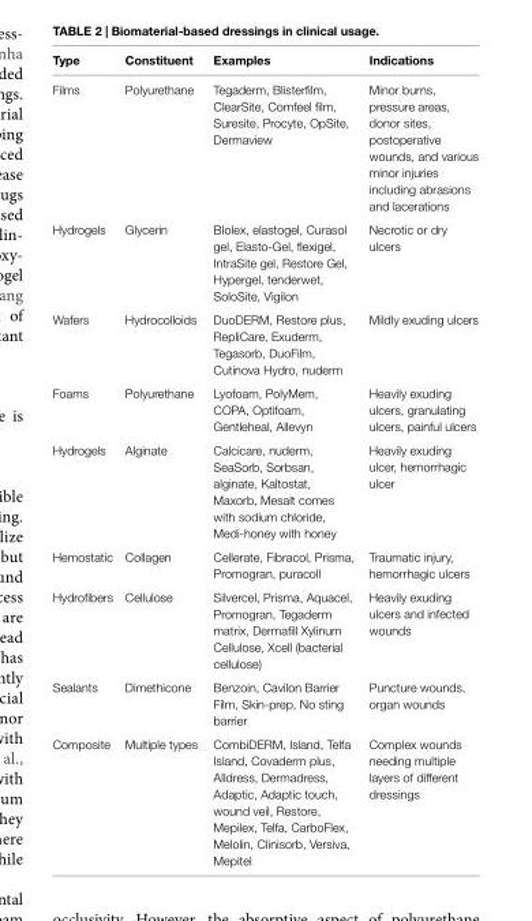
<table><thead><tr><td>Type</td><td>Constituent</td><td>examples</td><td>indications</td></tr></thead><tbody><tr><td>Films</td><td>Polyurethane</td><td>Tegaderm, Blisterfilm, ClearSite, Comfeel film, Suresite, Procyte, OpSite, Dermaview</td><td>Minor burns, pressure areas, donor sites, postoperative wounds, and various minor injuries including abrasions and lacerations</td></tr><tr><td>Hydrogels</td><td>Glycerin</td><td>BIolex, elastogel, Curasol gel, Elasto-Gel, flexigel, IntraSite gel, Restore Gel, Hypergel, tenderwet, SoloSite, Vigilon</td><td>Necrotic or dry ulcers</td></tr><tr><td>Wafers</td><td>Hydrocolloids</td><td>DuoDERM, Restore plus, RepliCare, Exuderm, Tegasorb, DuoFilm, Cutinova Hydro, nuderm</td><td>Mildly exuding ulcers</td></tr><tr><td>Foams</td><td>Polyurethane</td><td>Lyofoam, PolyMem, COPA, Optifoam, Gentleheal, Allevyn</td><td>Heavily exuding ulcers, granulating ulcers, painful ulcers</td></tr><tr><td>Hydrogels</td><td>Alginate</td><td>Calcicare, nuderm, SeaSorb, Sorbsan, alginate, Kaltostat, Maxorb, Mesalt comes with sodium chloride, Medi-honey with honey</td><td>Heavily exuding ulcer, hemorrhagic ulcer</td></tr><tr><td>Hemostatic</td><td>Collagen</td><td>Cellerate, Fibracol, Prisma, Promogran, puracoll</td><td>Traumatic injury, hemorrhagic ulcers</td></tr><tr><td>Hydrofibers</td><td>Cellulose</td><td>Silvercel, Prisma, Aquacel, Promogran, Tegaderm matrix, Dermafill Xylinum Cellulose, Xcell (bacterial cellulose)</td><td>Heavily exuding ulcers and infected wounds</td></tr><tr><td>Sealants</td><td>Dimethicone</td><td>Benzoin, Cavilon Barrier Film, Skin-prep, No sting barrier</td><td>Puncture wounds, organ wounds</td></tr><tr><td>Composite</td><td>Multiple types</td><td>CombiDERM, Island, Telfa Island, Covaderm plus, Alldress, Dermadress, Adaptic, Adaptic touch, wound veil, Restore, Mepilex, Telfa, CarboFlex, Melolin, Clinisorb, Versiva, Mepitel</td><td>Complex wounds needing multiple layers of different dressings</td></tr></tbody></table>